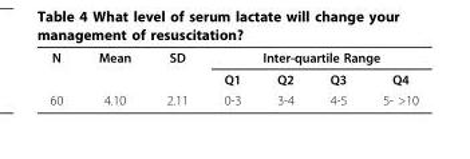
<table><tbody><tr><td rowspan="2">N</td><td>Mean</td><td>SD</td><td colspan="4">Inter-quartile Range</td></tr><tr><td></td><td></td><td>Q1</td><td>Q2</td><td>Q3</td><td>Q4</td></tr><tr><td>60</td><td>4.10</td><td>2.11</td><td>0-3</td><td>3-4</td><td>4-5</td><td>5- &gt;10</td></tr></tbody></table>